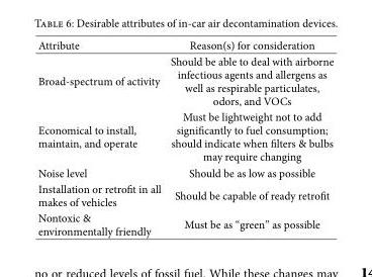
<table><thead><tr><td>Attribute</td><td>Reason(s) for consideration</td></tr></thead><tbody><tr><td>Broad-spectrum of activity</td><td>Should be able to deal with airborne infectious agents and allergens as well as respirable particulates, odors, and VOCs</td></tr><tr><td>Economical to install, maintain, and operate</td><td>Must be lightweight not to add significantly to fuel consumption; should indicate when filters &amp; bulbs may require changing</td></tr><tr><td>Noise level</td><td>Should be as low as possible</td></tr><tr><td>Installation or retrofit in all makes of vehicles</td><td>Should be capable of ready retrofit</td></tr><tr><td>Nontoxic &amp; environmentally friendly</td><td>Must be as “green” as possible</td></tr></tbody></table>